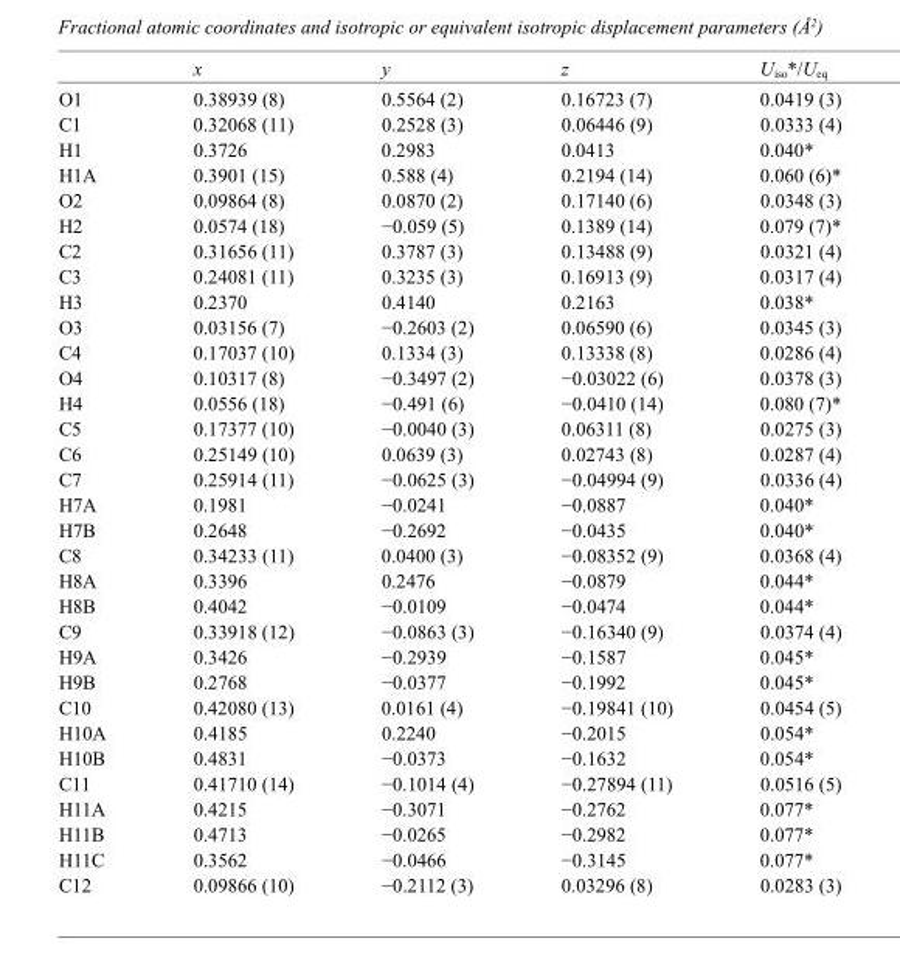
<table><thead><tr><td></td><td>x</td><td>y</td><td>z</td><td>U<sub>iso</sub>*/U<sub>eq</sub></td></tr></thead><tbody><tr><td>O1</td><td>0.38939 (8)</td><td>0.5564 (2)</td><td>0.16723 (7)</td><td>0.0419 (3)</td></tr><tr><td>C1</td><td>0.32068 (11)</td><td>0.2528 (3)</td><td>0.06446 (9)</td><td>0.0333 (4)</td></tr><tr><td>H1</td><td>0.3726</td><td>0.2983</td><td>0.0413</td><td>0.040*</td></tr><tr><td>H1A</td><td>0.3901 (15)</td><td>0.588 (4)</td><td>0.2194 (14)</td><td>0.060 (6)*</td></tr><tr><td>O2</td><td>0.09864 (8)</td><td>0.0870 (2)</td><td>0.17140 (6)</td><td>0.0348 (3)</td></tr><tr><td>H2</td><td>0.0574 (18)</td><td>−0.059 (5)</td><td>0.1389 (14)</td><td>0.079 (7)*</td></tr><tr><td>C2</td><td>0.31656 (11)</td><td>0.3787 (3)</td><td>0.13488 (9)</td><td>0.0321 (4)</td></tr><tr><td>C3</td><td>0.24081 (11)</td><td>0.3235 (3)</td><td>0.16913 (9)</td><td>0.0317 (4)</td></tr><tr><td>H3</td><td>0.2370</td><td>0.4140</td><td>0.2163</td><td>0.038*</td></tr><tr><td>O3</td><td>0.03156 (7)</td><td>−0.2603 (2)</td><td>0.06590 (6)</td><td>0.0345 (3)</td></tr><tr><td>C4</td><td>0.17037 (10)</td><td>0.1334 (3)</td><td>0.13338 (8)</td><td>0.0286 (4)</td></tr><tr><td>O4</td><td>0.10317 (8)</td><td>−0.3497 (2)</td><td>−0.03022 (6)</td><td>0.0378 (3)</td></tr><tr><td>H4</td><td>0.0556 (18)</td><td>−0.491 (6)</td><td>−0.0410 (14)</td><td>0.080 (7)*</td></tr><tr><td>C5</td><td>0.17377 (10)</td><td>−0.0040 (3)</td><td>0.06311 (8)</td><td>0.0275 (3)</td></tr><tr><td>C6</td><td>0.25149 (10)</td><td>0.0639 (3)</td><td>0.02743 (8)</td><td>0.0287 (4)</td></tr><tr><td>C7</td><td>0.25914 (11)</td><td>−0.0625 (3)</td><td>−0.04994 (9)</td><td>0.0336 (4)</td></tr><tr><td>H7A</td><td>0.1981</td><td>−0.0241</td><td>−0.0887</td><td>0.040*</td></tr><tr><td>H7B</td><td>0.2648</td><td>−0.2692</td><td>−0.0435</td><td>0.040*</td></tr><tr><td>C8</td><td>0.34233 (11)</td><td>0.0400 (3)</td><td>−0.08352 (9)</td><td>0.0368 (4)</td></tr><tr><td>H8A</td><td>0.3396</td><td>0.2476</td><td>−0.0879</td><td>0.044*</td></tr><tr><td>H8B</td><td>0.4042</td><td>−0.0109</td><td>−0.0474</td><td>0.044*</td></tr><tr><td>C9</td><td>0.33918 (12)</td><td>−0.0863 (3)</td><td>−0.16340 (9)</td><td>0.0374 (4)</td></tr><tr><td>H9A</td><td>0.3426</td><td>−0.2939</td><td>−0.1587</td><td>0.045*</td></tr><tr><td>H9B</td><td>0.2768</td><td>−0.0377</td><td>−0.1992</td><td>0.045*</td></tr><tr><td>C10</td><td>0.42080 (13)</td><td>0.0161 (4)</td><td>−0.19841 (10)</td><td>0.0454 (5)</td></tr><tr><td>H10A</td><td>0.4185</td><td>0.2240</td><td>−0.2015</td><td>0.054*</td></tr><tr><td>H10B</td><td>0.4831</td><td>−0.0373</td><td>−0.1632</td><td>0.054*</td></tr><tr><td>C11</td><td>0.41710 (14)</td><td>−0.1014 (4)</td><td>−0.27894 (11)</td><td>0.0516 (5)</td></tr><tr><td>H11A</td><td>0.4215</td><td>−0.3071</td><td>−0.2762</td><td>0.077*</td></tr><tr><td>H11B</td><td>0.4713</td><td>−0.0265</td><td>−0.2982</td><td>0.077*</td></tr><tr><td>H11C</td><td>0.3562</td><td>−0.0466</td><td>−0.3145</td><td>0.077*</td></tr><tr><td>C12</td><td>0.09866 (10)</td><td>−0.2112 (3)</td><td>0.03296 (8)</td><td>0.0283 (3)</td></tr></tbody></table>